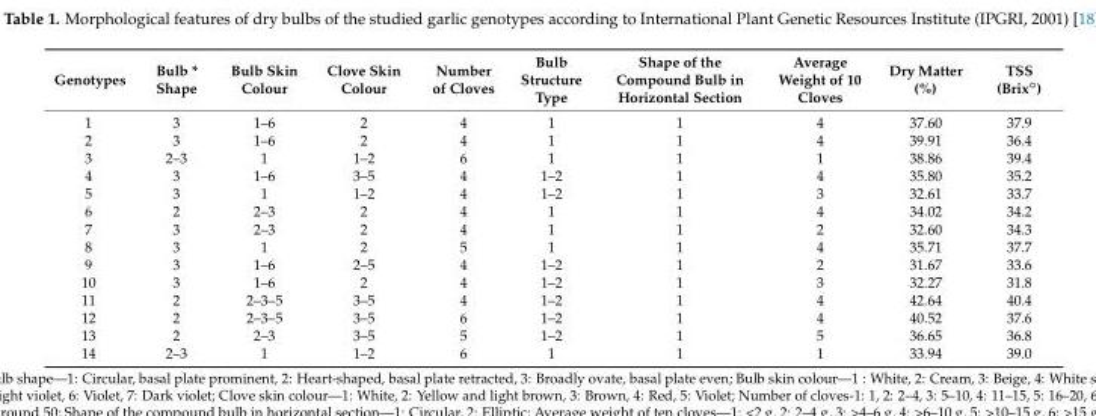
<table><thead><tr><td>Genotypes</td><td>Bulb * Shape</td><td>Bulb Skin Colour</td><td>Clove Skin Colour</td><td>Number of Cloves</td><td>Bulb Structure Type</td><td>Shape of the Compound Bulb in Horizontal Section</td><td>Average Weight of 10 Cloves</td><td>Dry Matter (%)</td><td>TSS (Brix◦)</td></tr></thead><tbody><tr><td>1</td><td>3</td><td>1–6</td><td>2</td><td>4</td><td>1</td><td>1</td><td>4</td><td>37.60</td><td>37.9</td></tr><tr><td>2</td><td>3</td><td>1–6</td><td>2</td><td>4</td><td>1</td><td>1</td><td>4</td><td>39.91</td><td>36.4</td></tr><tr><td>3</td><td>2–3</td><td>1</td><td>1–2</td><td>6</td><td>1</td><td>1</td><td>1</td><td>38.86</td><td>39.4</td></tr><tr><td>4</td><td>3</td><td>1–6</td><td>3–5</td><td>4</td><td>1–2</td><td>1</td><td>4</td><td>35.80</td><td>35.2</td></tr><tr><td>5</td><td>3</td><td>1</td><td>1–2</td><td>4</td><td>1–2</td><td>1</td><td>3</td><td>32.61</td><td>33.7</td></tr><tr><td>6</td><td>2</td><td>2–3</td><td>2</td><td>4</td><td>1</td><td>1</td><td>4</td><td>34.02</td><td>34.2</td></tr><tr><td>7</td><td>3</td><td>2–3</td><td>2</td><td>4</td><td>1</td><td>1</td><td>2</td><td>32.60</td><td>34.3</td></tr><tr><td>8</td><td>3</td><td>1</td><td>2</td><td>5</td><td>1</td><td>1</td><td>4</td><td>35.71</td><td>37.7</td></tr><tr><td>9</td><td>3</td><td>1–6</td><td>2–5</td><td>4</td><td>1–2</td><td>1</td><td>2</td><td>31.67</td><td>33.6</td></tr><tr><td>10</td><td>3</td><td>1–6</td><td>2</td><td>4</td><td>1–2</td><td>1</td><td>3</td><td>32.27</td><td>31.8</td></tr><tr><td>11</td><td>2</td><td>2–3–5</td><td>3–5</td><td>4</td><td>1–2</td><td>1</td><td>4</td><td>42.64</td><td>40.4</td></tr><tr><td>12</td><td>2</td><td>2–3–5</td><td>3–5</td><td>6</td><td>1–2</td><td>1</td><td>4</td><td>40.52</td><td>37.6</td></tr><tr><td>13</td><td>2</td><td>2–3</td><td>3–5</td><td>5</td><td>1–2</td><td>1</td><td>5</td><td>36.65</td><td>36.8</td></tr><tr><td>14</td><td>2–3</td><td>1</td><td>1–2</td><td>6</td><td>1</td><td>1</td><td>1</td><td>33.94</td><td>39.0</td></tr></tbody></table>